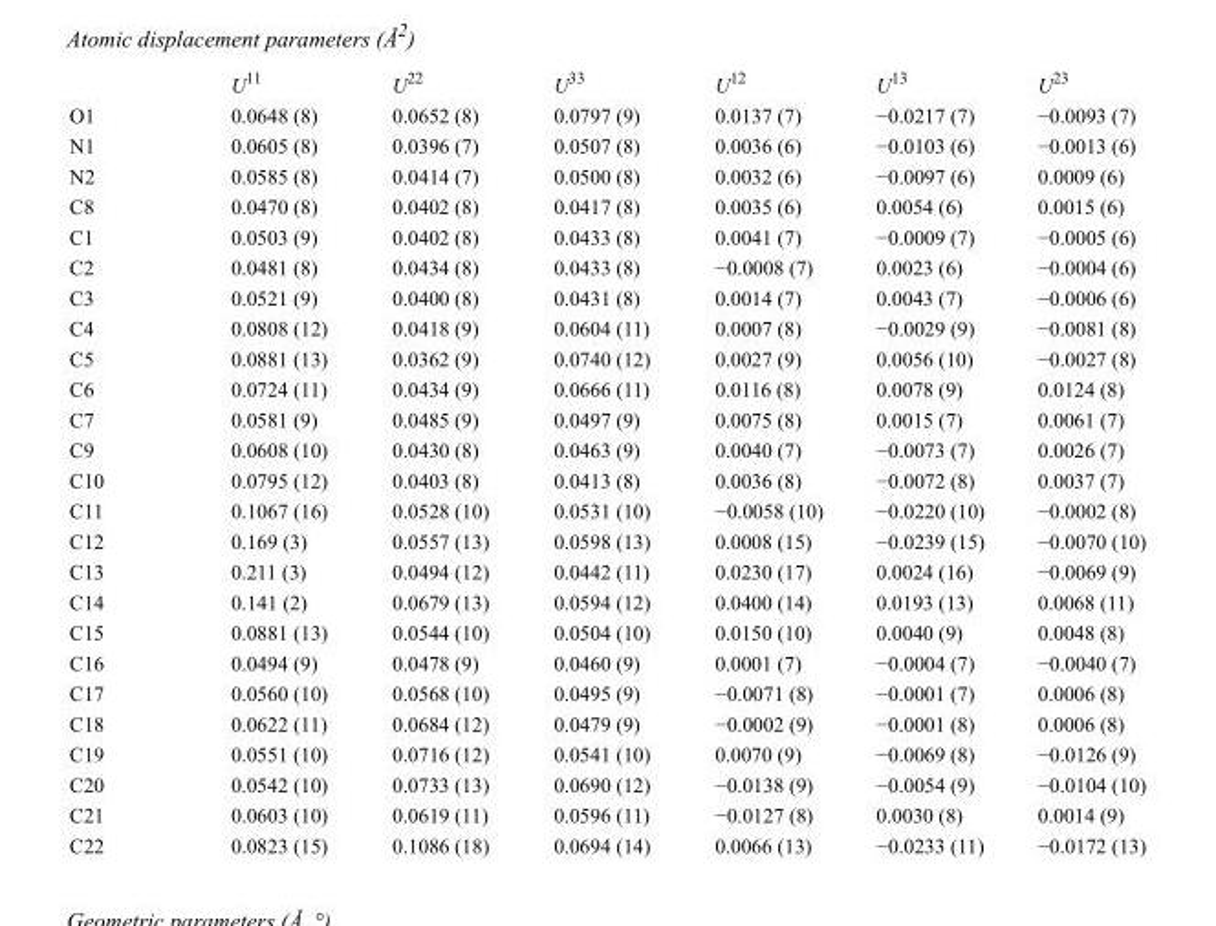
<table><thead><tr><td></td><td>U<sup>11</sup></td><td>U<sup>22</sup></td><td>U<sup>33</sup></td><td>U<sup>12</sup></td><td>U<sup>13</sup></td><td>U<sup>23</sup></td></tr></thead><tbody><tr><td>O1</td><td>0.0648 (8)</td><td>0.0652 (8)</td><td>0.0797 (9)</td><td>0.0137 (7)</td><td>−0.0217 (7)</td><td>−0.0093 (7)</td></tr><tr><td>N1</td><td>0.0605 (8)</td><td>0.0396 (7)</td><td>0.0507 (8)</td><td>0.0036 (6)</td><td>−0.0103 (6)</td><td>−0.0013 (6)</td></tr><tr><td>N2</td><td>0.0585 (8)</td><td>0.0414 (7)</td><td>0.0500 (8)</td><td>0.0032 (6)</td><td>−0.0097 (6)</td><td>0.0009 (6)</td></tr><tr><td>C8</td><td>0.0470 (8)</td><td>0.0402 (8)</td><td>0.0417 (8)</td><td>0.0035 (6)</td><td>0.0054 (6)</td><td>0.0015 (6)</td></tr><tr><td>C1</td><td>0.0503 (9)</td><td>0.0402 (8)</td><td>0.0433 (8)</td><td>0.0041 (7)</td><td>−0.0009 (7)</td><td>−0.0005 (6)</td></tr><tr><td>C2</td><td>0.0481 (8)</td><td>0.0434 (8)</td><td>0.0433 (8)</td><td>−0.0008 (7)</td><td>0.0023 (6)</td><td>−0.0004 (6)</td></tr><tr><td>C3</td><td>0.0521 (9)</td><td>0.0400 (8)</td><td>0.0431 (8)</td><td>0.0014 (7)</td><td>0.0043 (7)</td><td>−0.0006 (6)</td></tr><tr><td>C4</td><td>0.0808 (12)</td><td>0.0418 (9)</td><td>0.0604 (11)</td><td>0.0007 (8)</td><td>−0.0029 (9)</td><td>−0.0081 (8)</td></tr><tr><td>C5</td><td>0.0881 (13)</td><td>0.0362 (9)</td><td>0.0740 (12)</td><td>0.0027 (9)</td><td>0.0056 (10)</td><td>−0.0027 (8)</td></tr><tr><td>C6</td><td>0.0724 (11)</td><td>0.0434 (9)</td><td>0.0666 (11)</td><td>0.0116 (8)</td><td>0.0078 (9)</td><td>0.0124 (8)</td></tr><tr><td>C7</td><td>0.0581 (9)</td><td>0.0485 (9)</td><td>0.0497 (9)</td><td>0.0075 (8)</td><td>0.0015 (7)</td><td>0.0061 (7)</td></tr><tr><td>C9</td><td>0.0608 (10)</td><td>0.0430 (8)</td><td>0.0463 (9)</td><td>0.0040 (7)</td><td>−0.0073 (7)</td><td>0.0026 (7)</td></tr><tr><td>C10</td><td>0.0795 (12)</td><td>0.0403 (8)</td><td>0.0413 (8)</td><td>0.0036 (8)</td><td>−0.0072 (8)</td><td>0.0037 (7)</td></tr><tr><td>C11</td><td>0.1067 (16)</td><td>0.0528 (10)</td><td>0.0531 (10)</td><td>−0.0058 (10)</td><td>−0.0220 (10)</td><td>−0.0002 (8)</td></tr><tr><td>C12</td><td>0.169 (3)</td><td>0.0557 (13)</td><td>0.0598 (13)</td><td>0.0008 (15)</td><td>−0.0239 (15)</td><td>−0.0070 (10)</td></tr><tr><td>C13</td><td>0.211 (3)</td><td>0.0494 (12)</td><td>0.0442 (11)</td><td>0.0230 (17)</td><td>0.0024 (16)</td><td>−0.0069 (9)</td></tr><tr><td>C14</td><td>0.141 (2)</td><td>0.0679 (13)</td><td>0.0594 (12)</td><td>0.0400 (14)</td><td>0.0193 (13)</td><td>0.0068 (11)</td></tr><tr><td>C15</td><td>0.0881 (13)</td><td>0.0544 (10)</td><td>0.0504 (10)</td><td>0.0150 (10)</td><td>0.0040 (9)</td><td>0.0048 (8)</td></tr><tr><td>C16</td><td>0.0494 (9)</td><td>0.0478 (9)</td><td>0.0460 (9)</td><td>0.0001 (7)</td><td>−0.0004 (7)</td><td>−0.0040 (7)</td></tr><tr><td>C17</td><td>0.0560 (10)</td><td>0.0568 (10)</td><td>0.0495 (9)</td><td>−0.0071 (8)</td><td>−0.0001 (7)</td><td>0.0006 (8)</td></tr><tr><td>C18</td><td>0.0622 (11)</td><td>0.0684 (12)</td><td>0.0479 (9)</td><td>−0.0002 (9)</td><td>−0.0001 (8)</td><td>0.0006 (8)</td></tr><tr><td>C19</td><td>0.0551 (10)</td><td>0.0716 (12)</td><td>0.0541 (10)</td><td>0.0070 (9)</td><td>−0.0069 (8)</td><td>−0.0126 (9)</td></tr><tr><td>C20</td><td>0.0542 (10)</td><td>0.0733 (13)</td><td>0.0690 (12)</td><td>−0.0138 (9)</td><td>−0.0054 (9)</td><td>−0.0104 (10)</td></tr><tr><td>C21</td><td>0.0603 (10)</td><td>0.0619 (11)</td><td>0.0596 (11)</td><td>−0.0127 (8)</td><td>0.0030 (8)</td><td>0.0014 (9)</td></tr><tr><td>C22</td><td>0.0823 (15)</td><td>0.1086 (18)</td><td>0.0694 (14)</td><td>0.0066 (13)</td><td>−0.0233 (11)</td><td>−0.0172 (13)</td></tr></tbody></table>